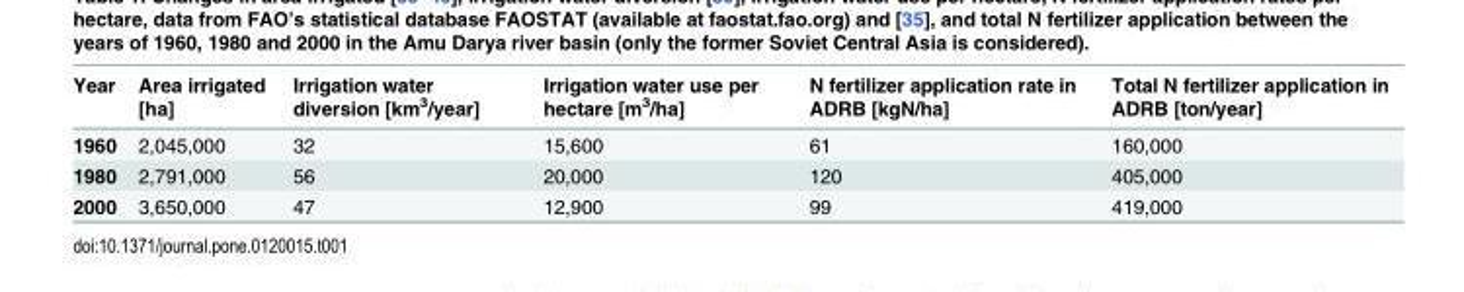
<table><thead><tr><td>Year</td><td>Area irrigated [ha]</td><td>Irrigation water diversion [km<sup>3</sup>/year]</td><td>Irrigation water use per hectare [m<sup>3</sup>/ha]</td><td>N fertilizer application rate in ADRB [kgN/ha]</td><td>Total N fertilizer application in ADRB [ton/year]</td></tr></thead><tbody><tr><td>1960</td><td>2,045,000</td><td>32</td><td>15,600</td><td>61</td><td>160,000</td></tr><tr><td>1980</td><td>2,791,000</td><td>56</td><td>20,000</td><td>120</td><td>405,000</td></tr><tr><td>2000</td><td>3,650,000</td><td>47</td><td>12,900</td><td>99</td><td>419,000</td></tr></tbody></table>